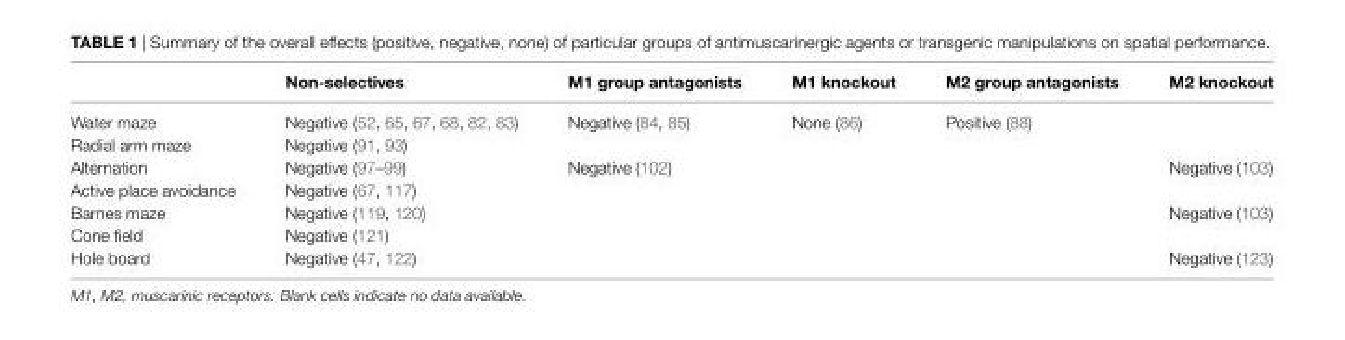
<table><thead><tr><td></td><td>Non-selectives</td><td>M1 group antagonists</td><td>M1 knockout</td><td>M2 group antagonists</td><td>M2 knockout</td></tr></thead><tbody><tr><td>Water maze</td><td>Negative (52, 65, 67, 68, 82, 83)</td><td>Negative (84, 85)</td><td>None (86)</td><td>Positive (88)</td><td></td></tr><tr><td>Radial arm maze</td><td>Negative (91, 93)</td><td></td><td></td><td></td><td></td></tr><tr><td>Alternation</td><td>Negative (97–99)</td><td>Negative (102)</td><td></td><td></td><td>Negative (103)</td></tr><tr><td>Active place avoidance</td><td>Negative (67, 117)</td><td></td><td></td><td></td><td></td></tr><tr><td>Barnes maze</td><td>Negative (119, 120)</td><td></td><td></td><td></td><td>Negative (103)</td></tr><tr><td>Cone field</td><td>Negative (121)</td><td></td><td></td><td></td><td></td></tr><tr><td>Hole board</td><td>Negative (47, 122)</td><td></td><td></td><td></td><td>Negative (123)</td></tr></tbody></table>